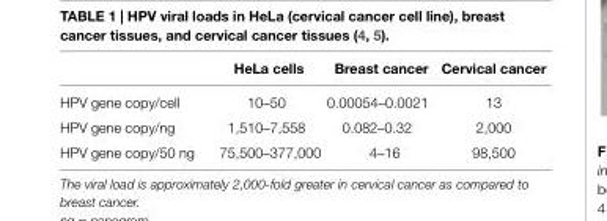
<table><thead><tr><td></td><td>HeLa cells</td><td>Breast cancer</td><td>Cervical cancer</td></tr></thead><tbody><tr><td>HPV gene copy/cell</td><td>10–50</td><td>0.00054–0.0021</td><td>13</td></tr><tr><td>HPV gene copy/ng</td><td>1,510–7,558</td><td>0.082–0.32</td><td>2,000</td></tr><tr><td>HPV gene copy/50 ng</td><td>75,500–377,000</td><td>4–16</td><td>98,500</td></tr></tbody></table>